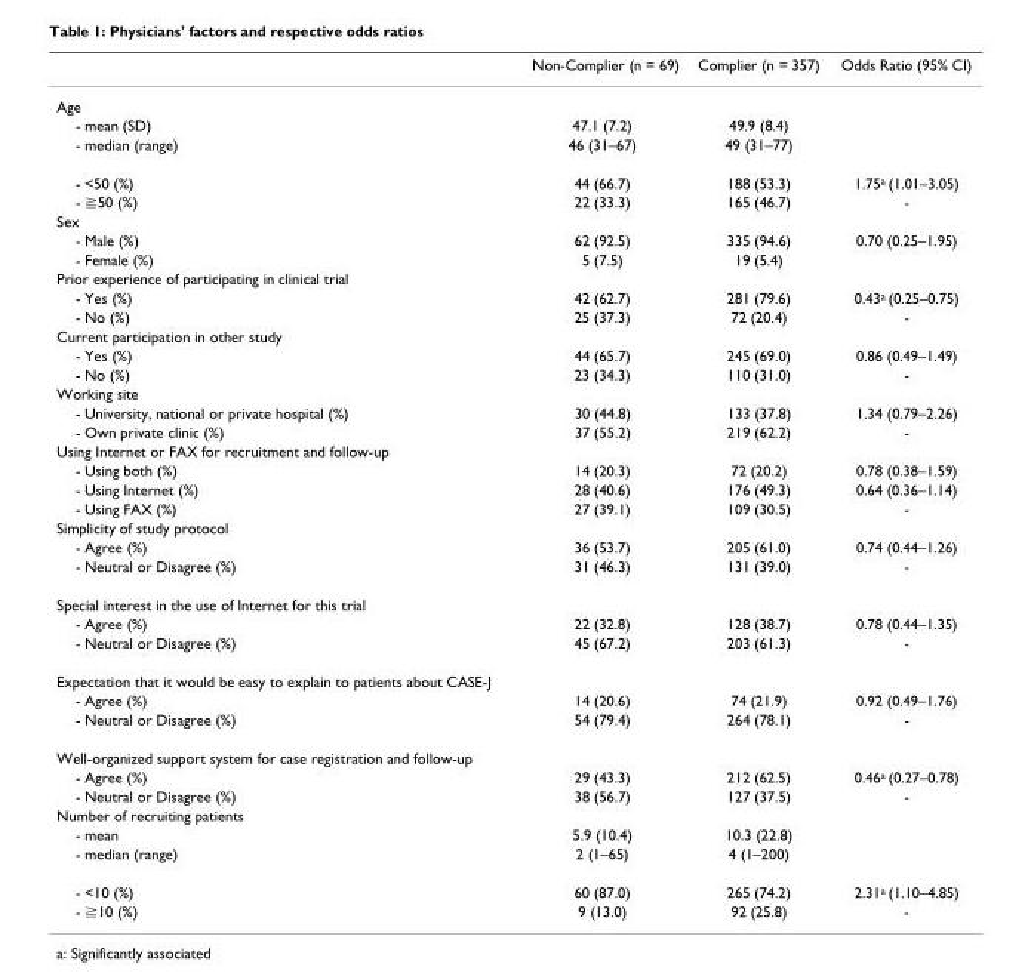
<table><thead><tr><td></td><td>Non-Complier (n = 69)</td><td>Complier (n = 357)</td><td>Odds Ratio (95% CI)</td></tr></thead><tbody><tr><td colspan="4">Age</td></tr><tr><td>- mean (SD)</td><td>47.1 (7.2)</td><td>49.9 (8.4)</td><td></td></tr><tr><td>- median (range)</td><td>46 (31–67)</td><td>49 (31–77)</td><td></td></tr><tr><td>- &lt;50 (%)</td><td>44 (66.7)</td><td>188 (53.3)</td><td>1.75<sup>a</sup> (1.01–3.05)</td></tr><tr><td>- ≧50 (%)</td><td>22 (33.3)</td><td>165 (46.7)</td><td>-</td></tr><tr><td colspan="4">Sex</td></tr><tr><td>- Male (%)</td><td>62 (92.5)</td><td>335 (94.6)</td><td>0.70 (0.25–1.95)</td></tr><tr><td>- Female (%)</td><td>5 (7.5)</td><td>19 (5.4)</td><td></td></tr><tr><td colspan="4">Prior experience of participating in clinical trial</td></tr><tr><td>- Yes (%)</td><td>42 (62.7)</td><td>281 (79.6)</td><td>0.43<sup>a</sup> (0.25–0.75)</td></tr><tr><td>- No (%)</td><td>25 (37.3)</td><td>72 (20.4)</td><td>-</td></tr><tr><td colspan="4">Current participation in other study</td></tr><tr><td>- Yes (%)</td><td>44 (65.7)</td><td>245 (69.0)</td><td>0.86 (0.49–1.49)</td></tr><tr><td>- No (%)</td><td>23 (34.3)</td><td>110 (31.0)</td><td>-</td></tr><tr><td colspan="4">Working site</td></tr><tr><td>- University, national or private hospital (%)</td><td>30 (44.8)</td><td>133 (37.8)</td><td>1.34 (0.79–2.26)</td></tr><tr><td>- Own private clinic (%)</td><td>37 (55.2)</td><td>219 (62.2)</td><td>-</td></tr><tr><td colspan="4">Using Internet or FAX for recruitment and follow-up</td></tr><tr><td>- Using both (%)</td><td>14 (20.3)</td><td>72 (20.2)</td><td>0.78 (0.38–1.59)</td></tr><tr><td>- Using Internet (%)</td><td>28 (40.6)</td><td>176 (49.3)</td><td>0.64 (0.36–1.14)</td></tr><tr><td>- Using FAX (%)</td><td>27 (39.1)</td><td>109 (30.5)</td><td>-</td></tr><tr><td colspan="4">Simplicity of study protocol</td></tr><tr><td>- Agree (%)</td><td>36 (53.7)</td><td>205 (61.0)</td><td>0.74 (0.44–1.26)</td></tr><tr><td>- Neutral or Disagree (%)</td><td>31 (46.3)</td><td>131 (39.0)</td><td>-</td></tr><tr><td colspan="4">Special interest in the use of Internet for this trial</td></tr><tr><td>- Agree (%)</td><td>22 (32.8)</td><td>128 (38.7)</td><td>0.78 (0.44–1.35)</td></tr><tr><td>- Neutral or Disagree (%)</td><td>45 (67.2)</td><td>203 (61.3)</td><td>-</td></tr><tr><td colspan="4">Expectation that it would be easy to explain to patients about CASE-J</td></tr><tr><td>- Agree (%)</td><td>14 (20.6)</td><td>74 (21.9)</td><td>0.92 (0.49–1.76)</td></tr><tr><td>- Neutral or Disagree (%)</td><td>54 (79.4)</td><td>264 (78.1)</td><td>-</td></tr><tr><td colspan="4">Well-organized support system for case registration and follow-up</td></tr><tr><td>- Agree (%)</td><td>29 (43.3)</td><td>212 (62.5)</td><td>0.46<sup>a</sup> (0.27–0.78)</td></tr><tr><td>- Neutral or Disagree (%)</td><td>38 (56.7)</td><td>127 (37.5)</td><td>-</td></tr><tr><td colspan="4">Number of recruiting patients</td></tr><tr><td>- mean</td><td>5.9 (10.4)</td><td>10.3 (22.8)</td><td></td></tr><tr><td>- median (range)</td><td>2 (1–65)</td><td>4 (1–200)</td><td></td></tr><tr><td>- &lt;10 (%)</td><td>60 (87.0)</td><td>265 (74.2)</td><td>2.31<sup>a</sup> (1.10–4.85)</td></tr><tr><td>- ≧10 (%)</td><td>9 (13.0)</td><td>92 (25.8)</td><td>-</td></tr></tbody></table>